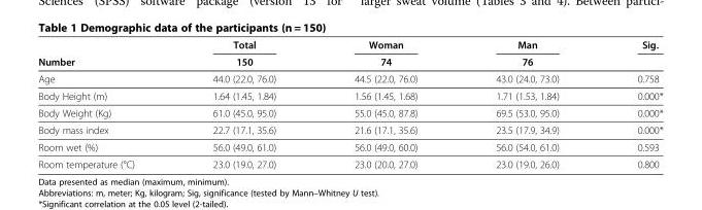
<table><thead><tr><td rowspan="2">Number</td><td rowspan="2">Total 150</td><td rowspan="2">Woman 74</td><td rowspan="2">Man 76</td><td rowspan="2">Sig.</td></tr><tr></tr></thead><tbody><tr><td>Age</td><td>44.0 (22.0, 76.0)</td><td>44.5 (22.0, 76.0)</td><td>43.0 (24.0, 73.0)</td><td>0.758</td></tr><tr><td>Body Height (m)</td><td>1.64 (1.45, 1.84)</td><td>1.56 (1.45, 1.68)</td><td>1.71 (1.53, 1.84)</td><td>0.000*</td></tr><tr><td>Body Weight (Kg)</td><td>61.0 (45.0, 95.0)</td><td>55.0 (45.0, 87.8)</td><td>69.5 (53.0, 95.0)</td><td>0.000*</td></tr><tr><td>Body mass index</td><td>22.7 (17.1, 35.6)</td><td>21.6 (17.1, 35.6)</td><td>23.5 (17.9, 34.9)</td><td>0.000*</td></tr><tr><td>Room wet (%)</td><td>56.0 (49.0, 61.0)</td><td>56.0 (49.0, 60.0)</td><td>56.0 (54.0, 61.0)</td><td>0.593</td></tr><tr><td>Room temperature (°C)</td><td>23.0 (19.0, 27.0)</td><td>23.0 (20.0, 27.0)</td><td>23.0 (19.0, 26.0)</td><td>0.800</td></tr></tbody></table>